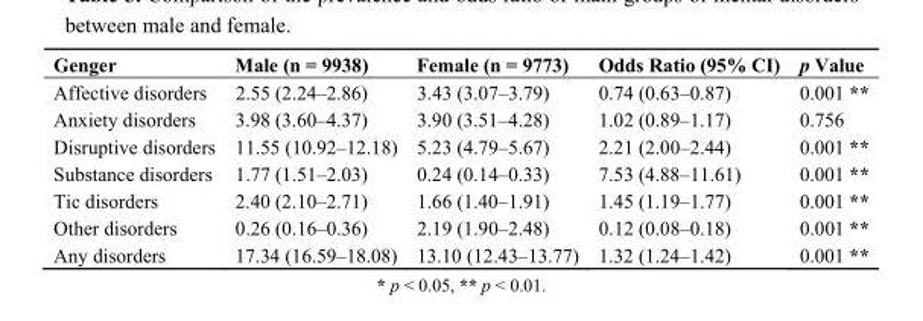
<table><thead><tr><td>Genger</td><td>Male (n = 9938)</td><td>Female (n = 9773)</td><td>Odds Ratio (95% CI)</td><td>p Value</td></tr></thead><tbody><tr><td>Affective disorders</td><td>2.55 (2.24–2.86)</td><td>3.43 (3.07–3.79)</td><td>0.74 (0.63–0.87)</td><td>0.001 **</td></tr><tr><td>Anxiety disorders</td><td>3.98 (3.60–4.37)</td><td>3.90 (3.51–4.28)</td><td>1.02 (0.89–1.17)</td><td>0.756</td></tr><tr><td>Disruptive disorders</td><td>11.55 (10.92–12.18)</td><td>5.23 (4.79–5.67)</td><td>2.21 (2.00–2.44)</td><td>0.001 **</td></tr><tr><td>Substance disorders</td><td>1.77 (1.51–2.03)</td><td>0.24 (0.14–0.33)</td><td>7.53 (4.88–11.61)</td><td>0.001 **</td></tr><tr><td>Tic disorders</td><td>2.40 (2.10–2.71)</td><td>1.66 (1.40–1.91)</td><td>1.45 (1.19–1.77)</td><td>0.001 **</td></tr><tr><td>Other disorders</td><td>0.26 (0.16–0.36)</td><td>2.19 (1.90–2.48)</td><td>0.12 (0.08–0.18)</td><td>0.001 **</td></tr><tr><td>Any disorders</td><td>17.34 (16.59–18.08)</td><td>13.10 (12.43–13.77)</td><td>1.32 (1.24–1.42)</td><td>0.001 **</td></tr></tbody></table>